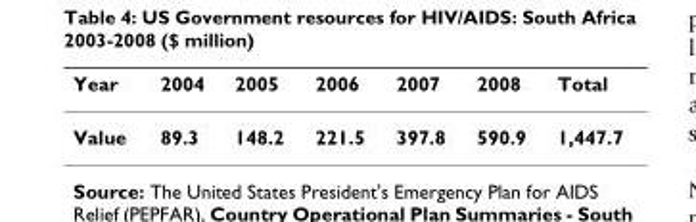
<table><thead><tr><td>Year</td><td>2004</td><td>2005</td><td>2006</td><td>2007</td><td>2008</td><td>Total</td></tr></thead><tbody><tr><td>Value</td><td>89.3</td><td>148.2</td><td>221.5</td><td>397.8</td><td>590.9</td><td>1,447.7</td></tr></tbody></table>